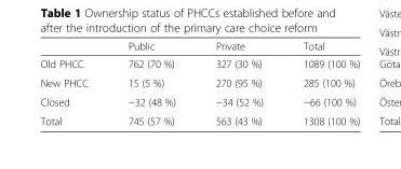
<table><thead><tr><td></td><td>Public</td><td>Private</td><td>Total</td></tr></thead><tbody><tr><td>Old PHCC</td><td>762 (70 %)</td><td>327 (30 %)</td><td>1089 (100 %)</td></tr><tr><td>New PHCC</td><td>15 (5 %)</td><td>270 (95 %)</td><td>285 (100 %)</td></tr><tr><td>Closed</td><td>−32 (48 %)</td><td>−34 (52 %)</td><td>−66 (100 %)</td></tr><tr><td>Total</td><td>745 (57 %)</td><td>563 (43 %)</td><td>1308 (100 %)</td></tr></tbody></table>